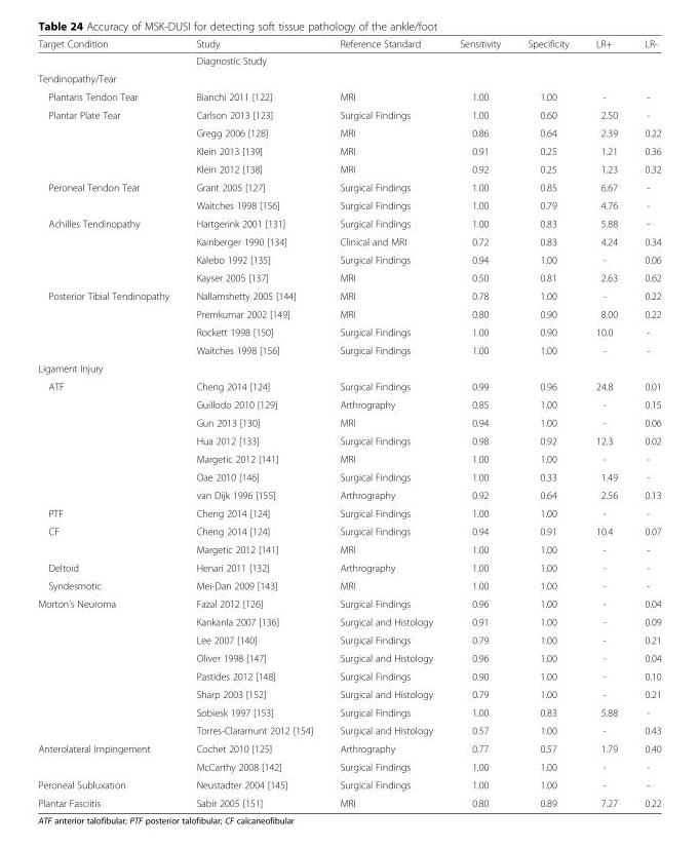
<table><thead><tr><td>Target Condition</td><td>Study</td><td>Reference Standard</td><td>Sensitivity</td><td>Specificity</td><td>LR+</td><td>LR-</td></tr></thead><tbody><tr><td></td><td>Diagnostic Study</td><td></td><td></td><td></td><td></td><td></td></tr><tr><td colspan="7">Tendinopathy/Tear</td></tr><tr><td>Plantaris Tendon Tear</td><td>Bianchi 2011 [122]</td><td>MRI</td><td>1.00</td><td>1.00</td><td>-</td><td>-</td></tr><tr><td rowspan="4">Plantar Plate Tear</td><td>Carlson 2013 [123]</td><td>Surgical Findings</td><td>1.00</td><td>0.60</td><td>2.50</td><td>-</td></tr><tr><td>Gregg 2006 [128]</td><td>MRI</td><td>0.86</td><td>0.64</td><td>2.39</td><td>0.22</td></tr><tr><td>Klein 2013 [139]</td><td>MRI</td><td>0.91</td><td>0.25</td><td>1.21</td><td>0.36</td></tr><tr><td>Klein 2012 [138]</td><td>MRI</td><td>0.92</td><td>0.25</td><td>1.23</td><td>0.32</td></tr><tr><td rowspan="2">Peroneal Tendon Tear</td><td>Grant 2005 [127]</td><td>Surgical Findings</td><td>1.00</td><td>0.85</td><td>6.67</td><td>-</td></tr><tr><td>Waitches 1998 [156]</td><td>Surgical Findings</td><td>1.00</td><td>0.79</td><td>4.76</td><td>-</td></tr><tr><td rowspan="4">Achilles Tendinopathy</td><td>Hartgerink 2001 [131]</td><td>Surgical Findings</td><td>1.00</td><td>0.83</td><td>5.88</td><td>-</td></tr><tr><td>Kainberger 1990 [134]</td><td>Clinical and MRI</td><td>0.72</td><td>0.83</td><td>4.24</td><td>0.34</td></tr><tr><td>Kalebo 1992 [135]</td><td>Surgical Findings</td><td>0.94</td><td>1.00</td><td>-</td><td>0.06</td></tr><tr><td>Kayser 2005 [137]</td><td>MRI</td><td>0.50</td><td>0.81</td><td>2.63</td><td>0.62</td></tr><tr><td rowspan="4">Posterior Tibial Tendinopathy</td><td>Nallamshetty 2005 [144]</td><td>MRI</td><td>0.78</td><td>1.00</td><td>-</td><td>0.22</td></tr><tr><td>Premkumar 2002 [149]</td><td>MRI</td><td>0.80</td><td>0.90</td><td>8.00</td><td>0.22</td></tr><tr><td>Rockett 1998 [150]</td><td>Surgical Findings</td><td>1.00</td><td>0.90</td><td>10.0</td><td>-</td></tr><tr><td>Waitches 1998 [156]</td><td>Surgical Findings</td><td>1.00</td><td>1.00</td><td>-</td><td>-</td></tr><tr><td colspan="7">Ligament Injury</td></tr><tr><td rowspan="7">ATF</td><td>Cheng 2014 [124]</td><td>Surgical Findings</td><td>0.99</td><td>0.96</td><td>24.8</td><td>0.01</td></tr><tr><td>Guillodo 2010 [129]</td><td>Arthrography</td><td>0.85</td><td>1.00</td><td>-</td><td>0.15</td></tr><tr><td>Gun 2013 [130]</td><td>MRI</td><td>0.94</td><td>1.00</td><td>-</td><td>0.06</td></tr><tr><td>Hua 2012 [133]</td><td>Surgical Findings</td><td>0.98</td><td>0.92</td><td>12.3</td><td>0.02</td></tr><tr><td>Margetic 2012 [141]</td><td>MRI</td><td>1.00</td><td>1.00</td><td>-</td><td>-</td></tr><tr><td>Oae 2010 [146]</td><td>Surgical Findings</td><td>1.00</td><td>0.33</td><td>1.49</td><td>-</td></tr><tr><td>van Dijk 1996 [155]</td><td>Arthrography</td><td>0.92</td><td>0.64</td><td>2.56</td><td>0.13</td></tr><tr><td>PTF</td><td>Cheng 2014 [124]</td><td>Surgical Findings</td><td>1.00</td><td>1.00</td><td>-</td><td>-</td></tr><tr><td rowspan="2">CF</td><td>Cheng 2014 [124]</td><td>Surgical Findings</td><td>0.94</td><td>0.91</td><td>10.4</td><td>0.07</td></tr><tr><td>Margetic 2012 [141]</td><td>MRI</td><td>1.00</td><td>1.00</td><td>-</td><td>-</td></tr><tr><td>Deltoid</td><td>Henari 2011 [132]</td><td>Arthrography</td><td>1.00</td><td>1.00</td><td>-</td><td>-</td></tr><tr><td>Syndesmotic</td><td>Mei-Dan 2009 [143]</td><td>MRI</td><td>1.00</td><td>1.00</td><td>-</td><td>-</td></tr><tr><td rowspan="8">Morton’s Neuroma</td><td>Fazal 2012 [126]</td><td>Surgical Findings</td><td>0.96</td><td>1.00</td><td>-</td><td>0.04</td></tr><tr><td>Kankanla 2007 [136]</td><td>Surgical and Histology</td><td>0.91</td><td>1.00</td><td>-</td><td>0.09</td></tr><tr><td>Lee 2007 [140]</td><td>Surgical Findings</td><td>0.79</td><td>1.00</td><td>-</td><td>0.21</td></tr><tr><td>Oliver 1998 [147]</td><td>Surgical and Histology</td><td>0.96</td><td>1.00</td><td>-</td><td>0.04</td></tr><tr><td>Pastides 2012 [148]</td><td>Surgical Findings</td><td>0.90</td><td>1.00</td><td>-</td><td>0.10</td></tr><tr><td>Sharp 2003 [152]</td><td>Surgical and Histology</td><td>0.79</td><td>1.00</td><td>-</td><td>0.21</td></tr><tr><td>Sobiesk 1997 [153]</td><td>Surgical Findings</td><td>1.00</td><td>0.83</td><td>5.88</td><td>-</td></tr><tr><td>Torres-Claramunt 2012 [154]</td><td>Surgical and Histology</td><td>0.57</td><td>1.00</td><td>-</td><td>0.43</td></tr><tr><td rowspan="2">Anterolateral Impingement</td><td>Cochet 2010 [125]</td><td>Arthrography</td><td>0.77</td><td>0.57</td><td>1.79</td><td>0.40</td></tr><tr><td>McCarthy 2008 [142]</td><td>Surgical Findings</td><td>1.00</td><td>1.00</td><td>-</td><td>-</td></tr><tr><td>Peroneal Subluxation</td><td>Neustadter 2004 [145]</td><td>Surgical Findings</td><td>1.00</td><td>1.00</td><td>-</td><td>-</td></tr><tr><td>Plantar Fasciitis</td><td>Sabir 2005 [151]</td><td>MRI</td><td>0.80</td><td>0.89</td><td>7.27</td><td>0.22</td></tr></tbody></table>